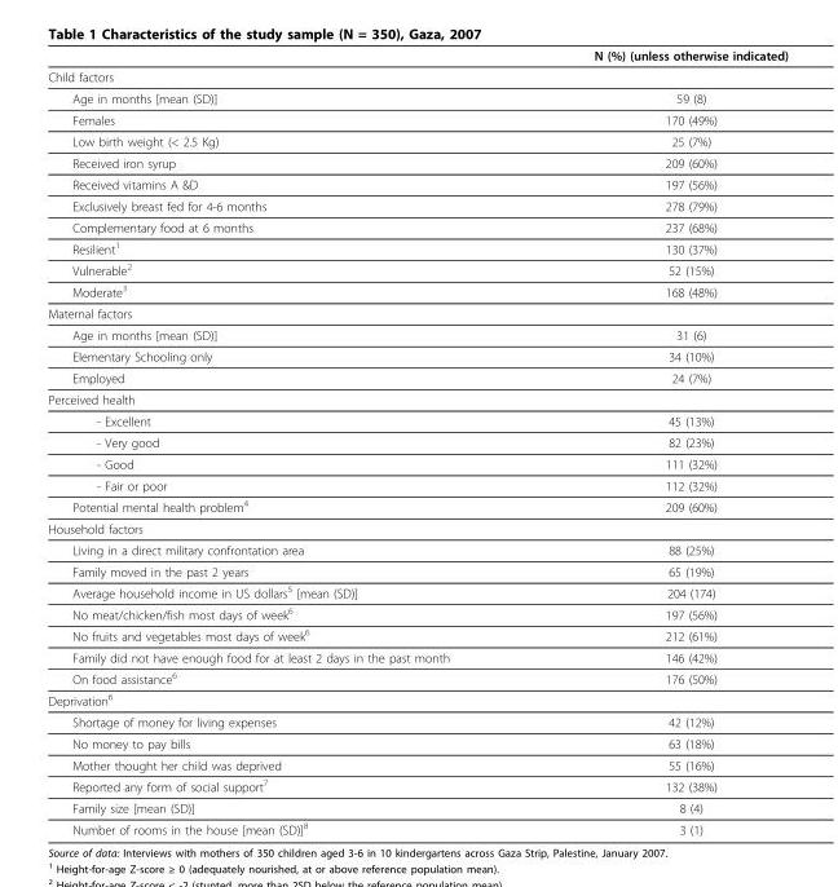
<table><thead><tr><td></td><td>N (%) (unless otherwise indicated)</td></tr></thead><tbody><tr><td colspan="2">Child factors</td></tr><tr><td>Age in months [mean (SD)]</td><td>59 (8)</td></tr><tr><td>Females</td><td>170 (49%)</td></tr><tr><td>Low birth weight (&lt; 2.5 Kg)</td><td>25 (7%)</td></tr><tr><td>Received iron syrup</td><td>209 (60%)</td></tr><tr><td>Received vitamins A &amp;D</td><td>197 (56%)</td></tr><tr><td>Exclusively breast fed for 4-6 months</td><td>278 (79%)</td></tr><tr><td>Complementary food at 6 months</td><td>237 (68%)</td></tr><tr><td>Resilient<sup>1</sup></td><td>130 (37%)</td></tr><tr><td>Vulnerable<sup>2</sup></td><td>52 (15%)</td></tr><tr><td>Moderate<sup>3</sup></td><td>168 (48%)</td></tr><tr><td colspan="2">Maternal factors</td></tr><tr><td>Age in months [mean (SD)]</td><td>31 (6)</td></tr><tr><td>Elementary Schooling only</td><td>34 (10%)</td></tr><tr><td>Employed</td><td>24 (7%)</td></tr><tr><td colspan="2">Perceived health</td></tr><tr><td>- Excellent</td><td>45 (13%)</td></tr><tr><td>- Very good</td><td>82 (23%)</td></tr><tr><td>- Good</td><td>111 (32%)</td></tr><tr><td>- Fair or poor</td><td>112 (32%)</td></tr><tr><td>Potential mental health problem<sup>4</sup></td><td>209 (60%)</td></tr><tr><td colspan="2">Household factors</td></tr><tr><td>Living in a direct military confrontation area</td><td>88 (25%)</td></tr><tr><td>Family moved in the past 2 years</td><td>65 (19%)</td></tr><tr><td>Average household income in US dollars<sup>5</sup> [mean (SD)]</td><td>204 (174)</td></tr><tr><td>No meat/chicken/fish most days of week<sup>6</sup></td><td>197 (56%)</td></tr><tr><td>No fruits and vegetables most days of week<sup>6</sup></td><td>212 (61%)</td></tr><tr><td>Family did not have enough food for at least 2 days in the past month</td><td>146 (42%)</td></tr><tr><td>On food assistance<sup>6</sup></td><td>176 (50%)</td></tr><tr><td colspan="2">Deprivation<sup>6</sup></td></tr><tr><td>Shortage of money for living expenses</td><td>42 (12%)</td></tr><tr><td>No money to pay bills</td><td>63 (18%)</td></tr><tr><td>Mother thought her child was deprived</td><td>55 (16%)</td></tr><tr><td>Reported any form of social support<sup>7</sup></td><td>132 (38%)</td></tr><tr><td>Family size [mean (SD)]</td><td>8 (4)</td></tr><tr><td>Number of rooms in the house [mean (SD)]<sup>8</sup></td><td>3 (1)</td></tr></tbody></table>